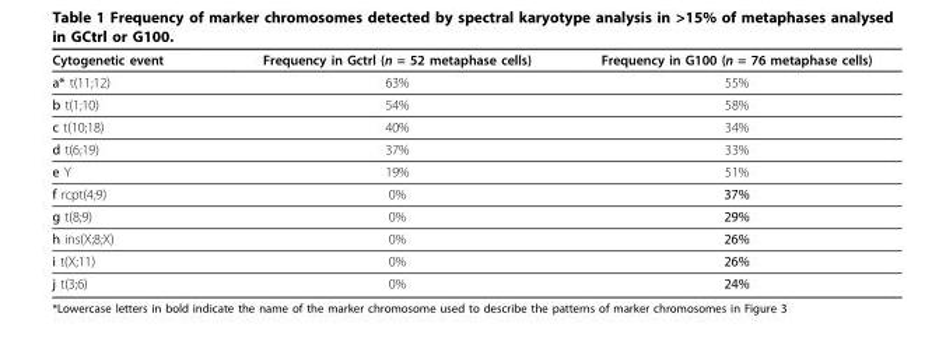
<table><thead><tr><td>Cytogenetic event</td><td>Frequency in Gctrl (n = 52 metaphase cells)</td><td>Frequency in G100 (n = 76 metaphase cells)</td></tr></thead><tbody><tr><td>a* t(11;12)</td><td>63%</td><td>55%</td></tr><tr><td>b t(1;10)</td><td>54%</td><td>58%</td></tr><tr><td>c t(10;18)</td><td>40%</td><td>34%</td></tr><tr><td>d t(6;19)</td><td>37%</td><td>33%</td></tr><tr><td>e Y</td><td>19%</td><td>51%</td></tr><tr><td>f rcpt(4;9)</td><td>0%</td><td>37%</td></tr><tr><td>g t(8;9)</td><td>0%</td><td>29%</td></tr><tr><td>h ins(X;8;X)</td><td>0%</td><td>26%</td></tr><tr><td>i t(X;11)</td><td>0%</td><td>26%</td></tr><tr><td>j t(3;6)</td><td>0%</td><td>24%</td></tr></tbody></table>